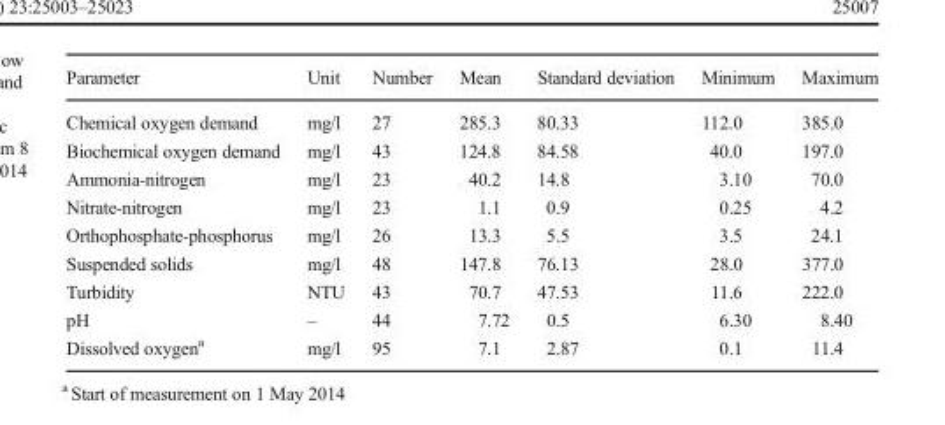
<table><thead><tr><td>Parameter</td><td>Unit</td><td>Number</td><td>Mean</td><td>Standard deviation</td><td>Minimum</td><td>Maximum</td></tr></thead><tbody><tr><td>Chemical oxygen demand</td><td>mg/l</td><td>27</td><td>285.3</td><td>80.33</td><td>112.0</td><td>385.0</td></tr><tr><td>Biochemical oxygen demand</td><td>mg/l</td><td>43</td><td>124.8</td><td>84.58</td><td>40.0</td><td>197.0</td></tr><tr><td>Ammonia-nitrogen</td><td>mg/l</td><td>23</td><td>40.2</td><td>14.8</td><td>3.10</td><td>70.0</td></tr><tr><td>Nitrate-nitrogen</td><td>mg/l</td><td>23</td><td>1.1</td><td>0.9</td><td>0.25</td><td>4.2</td></tr><tr><td>Orthophosphate-phosphorus</td><td>mg/l</td><td>26</td><td>13.3</td><td>5.5</td><td>3.5</td><td>24.1</td></tr><tr><td>Suspended solids</td><td>mg/l</td><td>48</td><td>147.8</td><td>76.13</td><td>28.0</td><td>377.0</td></tr><tr><td>Turbidity</td><td>NTU</td><td>43</td><td>70.7</td><td>47.53</td><td>11.6</td><td>222.0</td></tr><tr><td>pH</td><td>–</td><td>44</td><td>7.72</td><td>0.5</td><td>6.30</td><td>8.40</td></tr><tr><td>Dissolved oxygen<sup>a</sup></td><td>mg/l</td><td>95</td><td>7.1</td><td>2.87</td><td>0.1</td><td>11.4</td></tr></tbody></table>